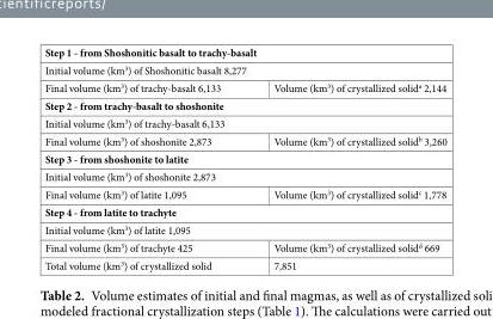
<table><tbody><tr><td colspan="2">Step 1 - from Shoshonitic basalt to trachy-basalt</td></tr><tr><td colspan="2">Initial volume (km<sup>3</sup>) of Shoshonitic basalt 8,277</td></tr><tr><td>Final volume (km<sup>3</sup>) of trachy-basalt 6,133</td><td>Volume (km<sup>3</sup>) of crystallized solid<sup>a</sup> 2,144</td></tr><tr><td colspan="2">Step 2 - from trachy-basalt to shoshonite</td></tr><tr><td colspan="2">Initial volume (km<sup>3</sup>) of trachy-basalt 6,133</td></tr><tr><td>Final volume (km<sup>3</sup>) of shoshonite 2,873</td><td>Volume (km<sup>3</sup>) of crystallized solid<sup>b</sup> 3,260</td></tr><tr><td colspan="2">Step 3 - from shoshonite to latite</td></tr><tr><td colspan="2">Initial volume (km<sup>3</sup>) of shoshonite 2,873</td></tr><tr><td>Final volume (km<sup>3</sup>) of latite 1,095</td><td>Volume (km<sup>3</sup>) of crystallized solid<sup>c</sup> 1,778</td></tr><tr><td colspan="2">Step 4 - from latite to trachyte</td></tr><tr><td colspan="2">Initial volume (km<sup>3</sup>) of latite 1,095</td></tr><tr><td>Final volume (km<sup>3</sup>) of trachyte 425</td><td>Volume (km<sup>3</sup>) of crystallized solid<sup>d</sup> 669</td></tr><tr><td>Total volume (km<sup>3</sup>) of crystallized solid</td><td>7,851</td></tr></tbody></table>